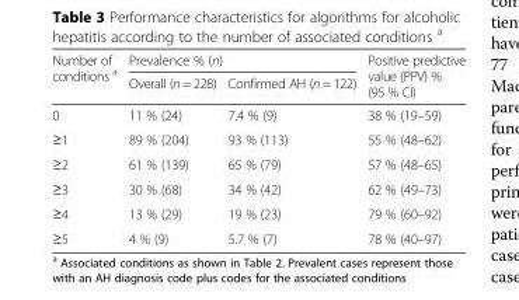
<table><thead><tr><td rowspan="2">Number of conditions <sup>a</sup></td><td colspan="2">Prevalence % (n)</td><td rowspan="2">Positive predictive value (PPV) % (95 % CI)</td></tr><tr><td>Overall (n = 228)</td><td>Confirmed AH (n = 122)</td></tr></thead><tbody><tr><td>0</td><td>11 % (24)</td><td>7.4 % (9)</td><td>38 % (19–59)</td></tr><tr><td>≥1</td><td>89 % (204)</td><td>93 % (113)</td><td>55 % (48–62)</td></tr><tr><td>≥2</td><td>61 % (139)</td><td>65 % (79)</td><td>57 % (48–65)</td></tr><tr><td>≥3</td><td>30 % (68)</td><td>34 % (42)</td><td>62 % (49–73)</td></tr><tr><td>≥4</td><td>13 % (29)</td><td>19 % (23)</td><td>79 % (60–92)</td></tr><tr><td>≥5</td><td>4 % (9)</td><td>5.7 % (7)</td><td>78 % (40–97)</td></tr></tbody></table>